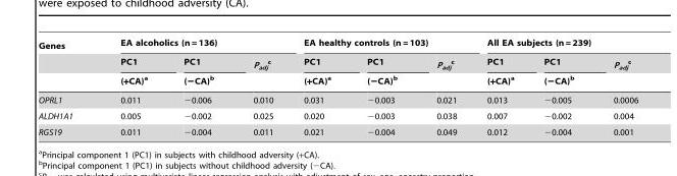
<table><thead><tr><td rowspan="3">Genes</td><td colspan="3">EA alcoholics (n = 136)</td><td colspan="3">EA healthy controls (n = 103)</td><td colspan="3">All EA subjects (n = 239)</td></tr><tr><td rowspan="2">PC1 (+CA)<sup>a</sup></td><td rowspan="2">PC1 (−CA)<sup>b</sup></td><td rowspan="2">P<sub>adj</sub> c</td><td rowspan="2">PC1 (+CA)<sup>a</sup></td><td rowspan="2">PC1 (−CA)<sup>b</sup></td><td rowspan="2">P<sub>adj</sub> c</td><td rowspan="2">PC1 (+CA)<sup>a</sup></td><td rowspan="2">PC1 (−CA)<sup>b</sup></td><td rowspan="2">P<sub>adj</sub> c</td></tr><tr></tr></thead><tbody><tr><td>OPRL1</td><td>0.011</td><td>−0.006</td><td>0.010</td><td>0.031</td><td>−0.003</td><td>0.021</td><td>0.013</td><td>−0.005</td><td>0.0006</td></tr><tr><td>ALDH1A1</td><td>0.005</td><td>−0.002</td><td>0.025</td><td>0.020</td><td>−0.003</td><td>0.038</td><td>0.007</td><td>−0.002</td><td>0.004</td></tr><tr><td>RGS19</td><td>0.011</td><td>−0.004</td><td>0.011</td><td>0.021</td><td>−0.004</td><td>0.049</td><td>0.012</td><td>−0.004</td><td>0.001</td></tr></tbody></table>